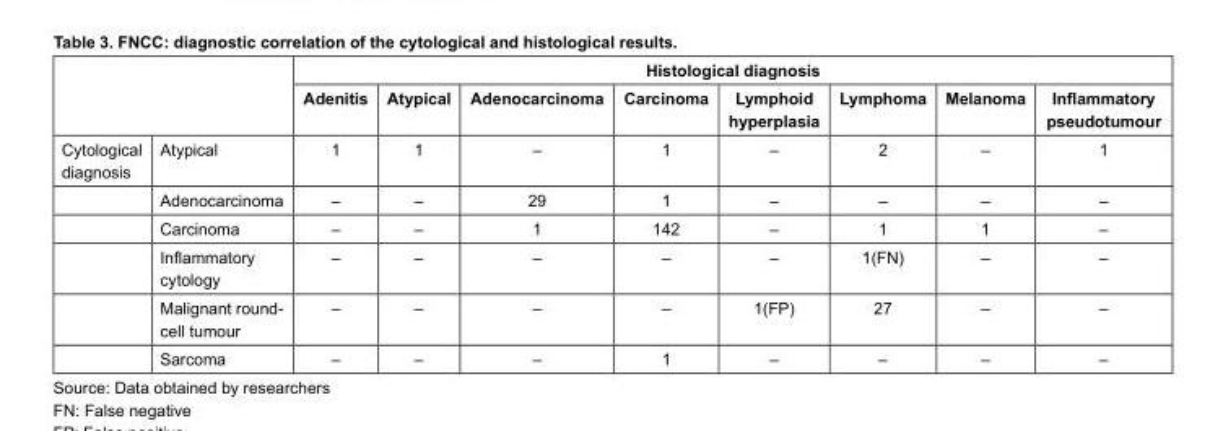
<table><thead><tr><td rowspan="2"></td><td rowspan="2"></td><td colspan="8">Histological diagnosis</td></tr><tr><td>Adenitis</td><td>Atypical</td><td>Adenocarcinoma</td><td>Carcinoma</td><td>Lymphoid hyperplasia</td><td>Lymphoma</td><td>Melanoma</td><td>Inflammatory pseudotumour</td></tr></thead><tbody><tr><td rowspan="6">Cytological diagnosis</td><td>Atypical</td><td>1</td><td>1</td><td>–</td><td>1</td><td>–</td><td>2</td><td>–</td><td>1</td></tr><tr><td>Adenocarcinoma</td><td>–</td><td>–</td><td>29</td><td>1</td><td>–</td><td>–</td><td>–</td><td>–</td></tr><tr><td>Carcinoma</td><td>–</td><td>–</td><td>1</td><td>142</td><td>–</td><td>1</td><td>1</td><td>–</td></tr><tr><td>Inflammatory cytology</td><td>–</td><td>–</td><td>–</td><td>–</td><td>–</td><td>1(FN)</td><td>–</td><td>–</td></tr><tr><td>Malignant round- cell tumour</td><td>–</td><td>–</td><td>–</td><td>–</td><td>1(FP)</td><td>27</td><td>–</td><td>–</td></tr><tr><td>Sarcoma</td><td>–</td><td>–</td><td>–</td><td>1</td><td>–</td><td>–</td><td>–</td><td>–</td></tr></tbody></table>